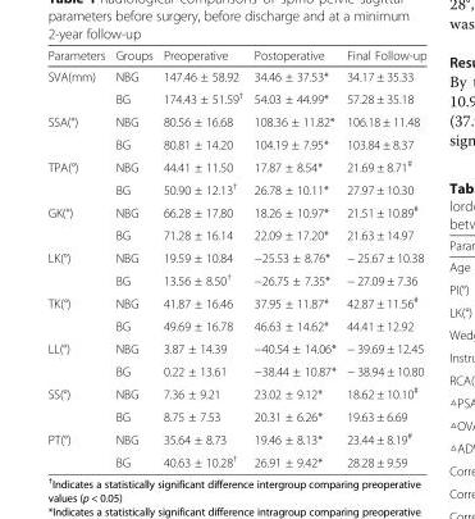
<table><thead><tr><td>Parameters</td><td>Groups</td><td>Preoperative</td><td>Postoperative</td><td>Final Follow-up</td></tr></thead><tbody><tr><td rowspan="2">SVA(mm)</td><td>NBG</td><td>147.46 ± 58.92</td><td>34.46 ± 37.53*</td><td>34.17 ± 35.33</td></tr><tr><td>BG</td><td>174.43 ± 51.59<sup>†</sup></td><td>54.03 ± 44.99*</td><td>57.28 ± 35.18</td></tr><tr><td rowspan="2">SSA(°)</td><td>NBG</td><td>80.56 ± 16.68</td><td>108.36 ± 11.82*</td><td>106.18 ± 11.48</td></tr><tr><td>BG</td><td>80.81 ± 14.20</td><td>104.19 ± 7.95*</td><td>103.84 ± 8.37</td></tr><tr><td rowspan="2">TPA(°)</td><td>NBG</td><td>44.41 ± 11.50</td><td>17.87 ± 8.54*</td><td>21.69 ± 8.71<sup>#</sup></td></tr><tr><td>BG</td><td>50.90 ± 12.13<sup>†</sup></td><td>26.78 ± 10.11*</td><td>27.97 ± 10.30</td></tr><tr><td rowspan="2">GK(°)</td><td>NBG</td><td>66.28 ± 17.80</td><td>18.26 ± 10.97*</td><td>21.51 ± 10.89<sup>#</sup></td></tr><tr><td>BG</td><td>71.28 ± 16.14</td><td>22.09 ± 17.20*</td><td>21.63 ± 14.97</td></tr><tr><td rowspan="2">LK(°)</td><td>NBG</td><td>19.59 ± 10.84</td><td>−25.53 ± 8.76*</td><td>− 25.67 ± 10.38</td></tr><tr><td>BG</td><td>13.56 ± 8.50<sup>†</sup></td><td>−26.75 ± 7.35*</td><td>− 27.09 ± 7.36</td></tr><tr><td rowspan="2">TK(°)</td><td>NBG</td><td>41.87 ± 16.46</td><td>37.95 ± 11.87*</td><td>42.87 ± 11.56<sup>#</sup></td></tr><tr><td>BG</td><td>49.69 ± 16.78</td><td>46.63 ± 14.62*</td><td>44.41 ± 12.92</td></tr><tr><td rowspan="2">LL(°)</td><td>NBG</td><td>3.87 ± 14.39</td><td>−40.54 ± 14.06*</td><td>− 39.69 ± 12.45</td></tr><tr><td>BG</td><td>0.22 ± 13.61</td><td>−38.44 ± 10.87*</td><td>− 38.94 ± 10.80</td></tr><tr><td rowspan="2">SS(°)</td><td>NBG</td><td>7.36 ± 9.21</td><td>23.02 ± 9.12*</td><td>18.62 ± 10.10<sup>#</sup></td></tr><tr><td>BG</td><td>8.75 ± 7.53</td><td>20.31 ± 6.26*</td><td>19.63 ± 6.69</td></tr><tr><td rowspan="2">PT(°)</td><td>NBG</td><td>35.64 ± 8.73</td><td>19.46 ± 8.13*</td><td>23.44 ± 8.19<sup>#</sup></td></tr><tr><td>BG</td><td>40.63 ± 10.28<sup>†</sup></td><td>26.91 ± 9.42*</td><td>28.28 ± 9.59</td></tr></tbody></table>